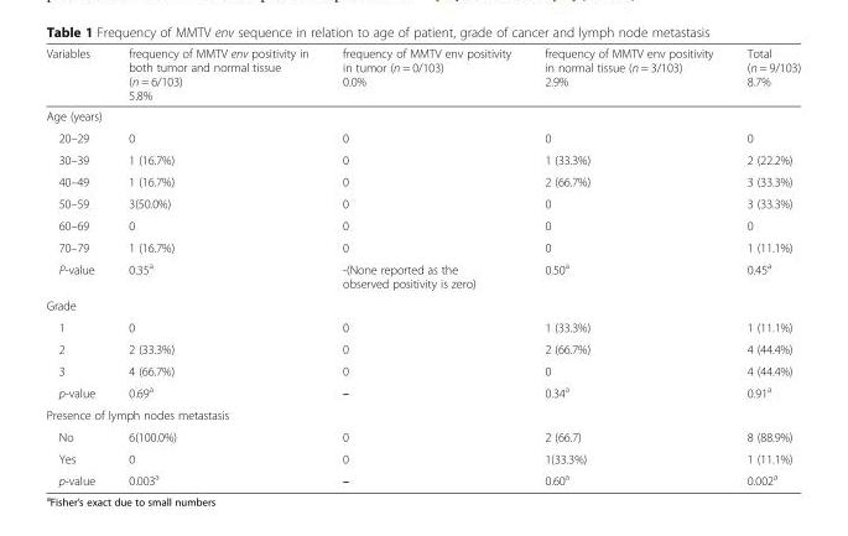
<table><thead><tr><td>Variables</td><td>frequency of MMTV env positivity in both tumor and normal tissue (n = 6/103) 5.8%</td><td>frequency of MMTV env positivity in tumor (n = 0/103) 0.0%</td><td>frequency of MMTV env positivity in normal tissue (n = 3/103) 2.9%</td><td>Total (n = 9/103) 8.7%</td></tr></thead><tbody><tr><td colspan="5">Age (years)</td></tr><tr><td>20–29</td><td>0</td><td>0</td><td>0</td><td>0</td></tr><tr><td>30–39</td><td>1 (16.7%)</td><td>0</td><td>1 (33.3%)</td><td>2 (22.2%)</td></tr><tr><td>40–49</td><td>1 (16.7%)</td><td>0</td><td>2 (66.7%)</td><td>3 (33.3%)</td></tr><tr><td>50–59</td><td>3(50.0%)</td><td>0</td><td>0</td><td>3 (33.3%)</td></tr><tr><td>60–69</td><td>0</td><td>0</td><td>0</td><td>0</td></tr><tr><td>70–79</td><td>1 (16.7%)</td><td>0</td><td>0</td><td>1 (11.1%)</td></tr><tr><td>P-value</td><td>0.35<sup>a</sup></td><td>-(None reported as the observed positivity is zero)</td><td>0.50<sup>a</sup></td><td>0.45<sup>a</sup></td></tr><tr><td colspan="5">Grade</td></tr><tr><td>1</td><td>0</td><td>0</td><td>1 (33.3%)</td><td>1 (11.1%)</td></tr><tr><td>2</td><td>2 (33.3%)</td><td>0</td><td>2 (66.7%)</td><td>4 (44.4%)</td></tr><tr><td>3</td><td>4 (66.7%)</td><td>0</td><td>0</td><td>4 (44.4%)</td></tr><tr><td>p-value</td><td>0.69<sup>a</sup></td><td>–</td><td>0.34<sup>a</sup></td><td>0.91<sup>a</sup></td></tr><tr><td colspan="5">Presence of lymph nodes metastasis</td></tr><tr><td>No</td><td>6(100.0%)</td><td>0</td><td>2 (66.7)</td><td>8 (88.9%)</td></tr><tr><td>Yes</td><td>0</td><td>0</td><td>1(33.3%)</td><td>1 (11.1%)</td></tr><tr><td>p-value</td><td>0.003<sup>a</sup></td><td>–</td><td>0.60<sup>a</sup></td><td>0.002<sup>a</sup></td></tr></tbody></table>